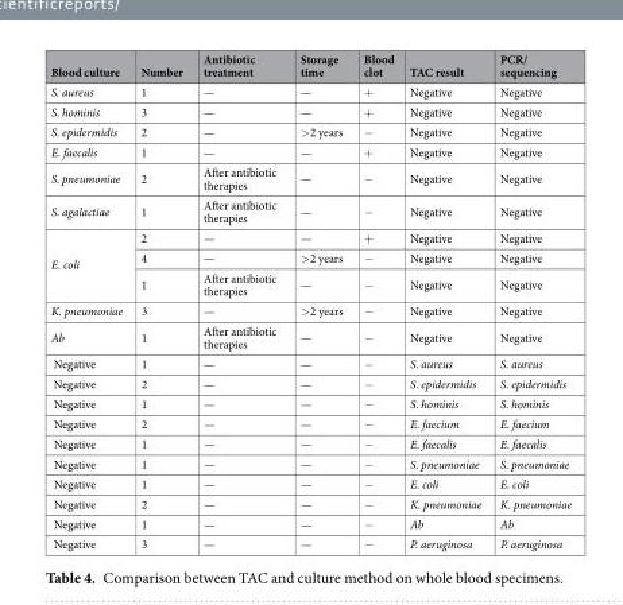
<table><thead><tr><td>Blood culture</td><td>Number</td><td>Antibiotic treatment</td><td>Storage time</td><td>Blood clot</td><td>TAC result</td><td>PCR/ sequencing</td></tr></thead><tbody><tr><td>S. aureus</td><td>1</td><td>—</td><td>—</td><td>+</td><td>Negative</td><td>Negative</td></tr><tr><td>S. hominis</td><td>3</td><td>—</td><td>—</td><td>+</td><td>Negative</td><td>Negative</td></tr><tr><td>S. epidermidis</td><td>2</td><td>—</td><td>&gt;2 years</td><td>−</td><td>Negative</td><td>Negative</td></tr><tr><td>E. faecalis</td><td>1</td><td>—</td><td>—</td><td>+</td><td>Negative</td><td>Negative</td></tr><tr><td>S. pneumoniae</td><td>2</td><td>After antibiotic therapies</td><td>—</td><td>−</td><td>Negative</td><td>Negative</td></tr><tr><td>S. agalactiae</td><td>1</td><td>After antibiotic therapies</td><td>—</td><td>−</td><td>Negative</td><td>Negative</td></tr><tr><td rowspan="3">E. coli</td><td>2</td><td>—</td><td>—</td><td>+</td><td>Negative</td><td>Negative</td></tr><tr><td>4</td><td>—</td><td>&gt;2 years</td><td>−</td><td>Negative</td><td>Negative</td></tr><tr><td>1</td><td>After antibiotic therapies</td><td>—</td><td>−</td><td>Negative</td><td>Negative</td></tr><tr><td>K. pneumoniae</td><td>3</td><td>—</td><td>&gt;2 years</td><td>−</td><td>Negative</td><td>Negative</td></tr><tr><td>Ab</td><td>1</td><td>After antibiotic therapies</td><td>—</td><td>−</td><td>Negative</td><td>Negative</td></tr><tr><td>Negative</td><td>1</td><td>—</td><td>—</td><td>−</td><td>S. aureus</td><td>S. aureus</td></tr><tr><td>Negative</td><td>2</td><td>—</td><td>—</td><td>−</td><td>S. epidermidis</td><td>S. epidermidis</td></tr><tr><td>Negative</td><td>1</td><td>—</td><td>—</td><td>−</td><td>S. hominis</td><td>S. hominis</td></tr><tr><td>Negative</td><td>2</td><td>—</td><td>—</td><td>−</td><td>E. faecium</td><td>E. faecium</td></tr><tr><td>Negative</td><td>1</td><td>—</td><td>—</td><td>−</td><td>E. faecalis</td><td>E. faecalis</td></tr><tr><td>Negative</td><td>1</td><td>—</td><td>—</td><td>−</td><td>S. pneumoniae</td><td>S. pneumoniae</td></tr><tr><td>Negative</td><td>1</td><td>—</td><td>—</td><td>−</td><td>E. coli</td><td>E. coli</td></tr><tr><td>Negative</td><td>2</td><td>—</td><td>—</td><td>−</td><td>K. pneumoniae</td><td>K. pneumoniae</td></tr><tr><td>Negative</td><td>1</td><td>—</td><td>—</td><td>−</td><td>Ab</td><td>Ab</td></tr><tr><td>Negative</td><td>3</td><td>—</td><td>—</td><td>−</td><td>P. aeruginosa</td><td>P. aeruginosa</td></tr></tbody></table>